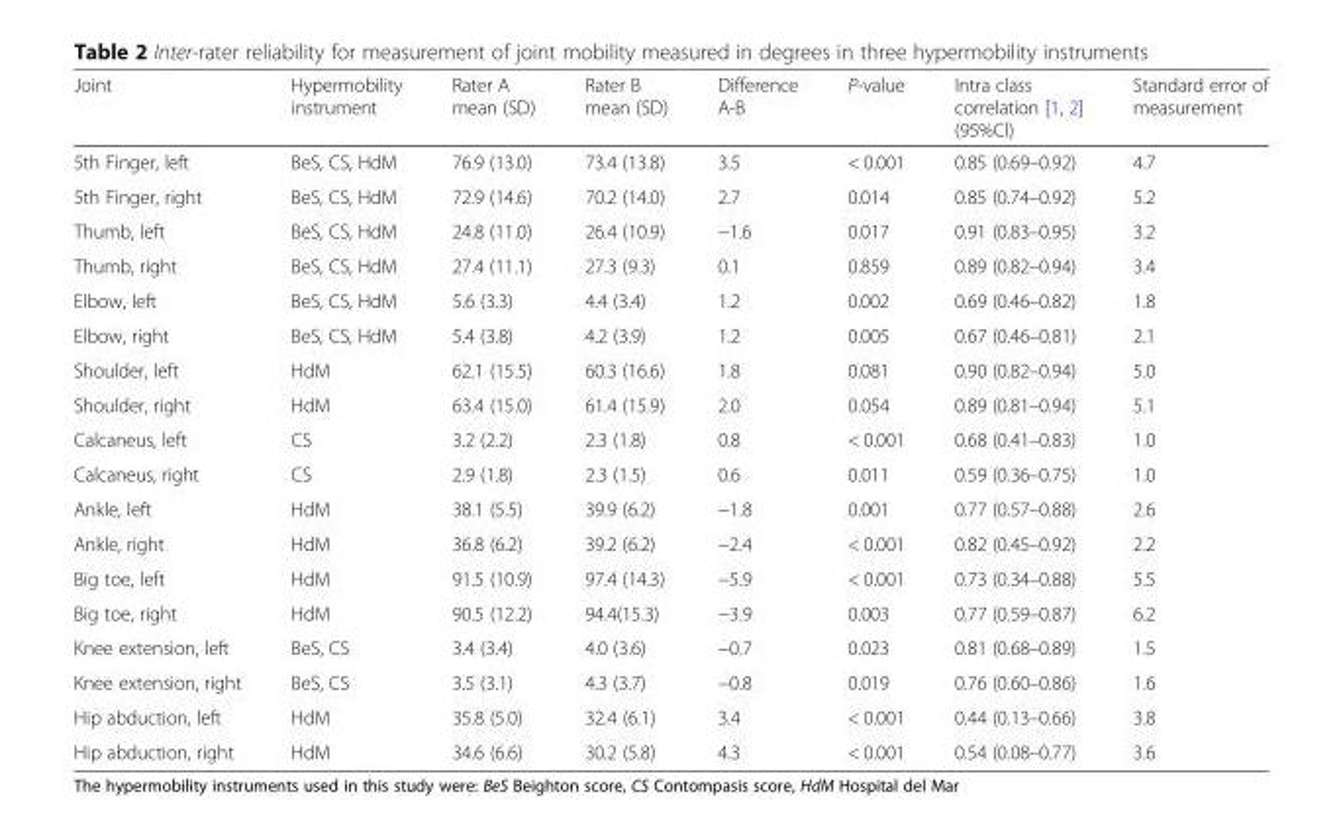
<table><thead><tr><td>Joint</td><td>Hypermobility instrument</td><td>Rater A mean (SD)</td><td>Rater B mean (SD)</td><td>Difference A-B</td><td>P-value</td><td>Intra class correlation [1, 2] (95%Cl)</td><td>Standard error of measurement</td></tr></thead><tbody><tr><td>5th Finger, left</td><td>BeS, CS, HdM</td><td>76.9 (13.0)</td><td>73.4 (13.8)</td><td>3.5</td><td>&lt; 0.001</td><td>0.85 (0.69–0.92)</td><td>4.7</td></tr><tr><td>5th Finger, right</td><td>BeS, CS, HdM</td><td>72.9 (14.6)</td><td>70.2 (14.0)</td><td>2.7</td><td>0.014</td><td>0.85 (0.74–0.92)</td><td>5.2</td></tr><tr><td>Thumb, left</td><td>BeS, CS, HdM</td><td>24.8 (11.0)</td><td>26.4 (10.9)</td><td>−1.6</td><td>0.017</td><td>0.91 (0.83–0.95)</td><td>3.2</td></tr><tr><td>Thumb, right</td><td>BeS, CS, HdM</td><td>27.4 (11.1)</td><td>27.3 (9.3)</td><td>0.1</td><td>0.859</td><td>0.89 (0.82–0.94)</td><td>3.4</td></tr><tr><td>Elbow, left</td><td>BeS, CS, HdM</td><td>5.6 (3.3)</td><td>4.4 (3.4)</td><td>1.2</td><td>0.002</td><td>0.69 (0.46–0.82)</td><td>1.8</td></tr><tr><td>Elbow, right</td><td>BeS, CS, HdM</td><td>5.4 (3.8)</td><td>4.2 (3.9)</td><td>1.2</td><td>0.005</td><td>0.67 (0.46–0.81)</td><td>2.1</td></tr><tr><td>Shoulder, left</td><td>HdM</td><td>62.1 (15.5)</td><td>60.3 (16.6)</td><td>1.8</td><td>0.081</td><td>0.90 (0.82–0.94)</td><td>5.0</td></tr><tr><td>Shoulder, right</td><td>HdM</td><td>63.4 (15.0)</td><td>61.4 (15.9)</td><td>2.0</td><td>0.054</td><td>0.89 (0.81–0.94)</td><td>5.1</td></tr><tr><td>Calcaneus, left</td><td>CS</td><td>3.2 (2.2)</td><td>2.3 (1.8)</td><td>0.8</td><td>&lt; 0.001</td><td>0.68 (0.41–0.83)</td><td>1.0</td></tr><tr><td>Calcaneus, right</td><td>CS</td><td>2.9 (1.8)</td><td>2.3 (1.5)</td><td>0.6</td><td>0.011</td><td>0.59 (0.36–0.75)</td><td>1.0</td></tr><tr><td>Ankle, left</td><td>HdM</td><td>38.1 (5.5)</td><td>39.9 (6.2)</td><td>−1.8</td><td>0.001</td><td>0.77 (0.57–0.88)</td><td>2.6</td></tr><tr><td>Ankle, right</td><td>HdM</td><td>36.8 (6.2)</td><td>39.2 (6.2)</td><td>−2.4</td><td>&lt; 0.001</td><td>0.82 (0.45–0.92)</td><td>2.2</td></tr><tr><td>Big toe, left</td><td>HdM</td><td>91.5 (10.9)</td><td>97.4 (14.3)</td><td>−5.9</td><td>&lt; 0.001</td><td>0.73 (0.34–0.88)</td><td>5.5</td></tr><tr><td>Big toe, right</td><td>HdM</td><td>90.5 (12.2)</td><td>94.4(15.3)</td><td>−3.9</td><td>0.003</td><td>0.77 (0.59–0.87)</td><td>6.2</td></tr><tr><td>Knee extension, left</td><td>BeS, CS</td><td>3.4 (3.4)</td><td>4.0 (3.6)</td><td>−0.7</td><td>0.023</td><td>0.81 (0.68–0.89)</td><td>1.5</td></tr><tr><td>Knee extension, right</td><td>BeS, CS</td><td>3.5 (3.1)</td><td>4.3 (3.7)</td><td>−0.8</td><td>0.019</td><td>0.76 (0.60–0.86)</td><td>1.6</td></tr><tr><td>Hip abduction, left</td><td>HdM</td><td>35.8 (5.0)</td><td>32.4 (6.1)</td><td>3.4</td><td>&lt; 0.001</td><td>0.44 (0.13–0.66)</td><td>3.8</td></tr><tr><td>Hip abduction, right</td><td>HdM</td><td>34.6 (6.6)</td><td>30.2 (5.8)</td><td>4.3</td><td>&lt; 0.001</td><td>0.54 (0.08–0.77)</td><td>3.6</td></tr></tbody></table>